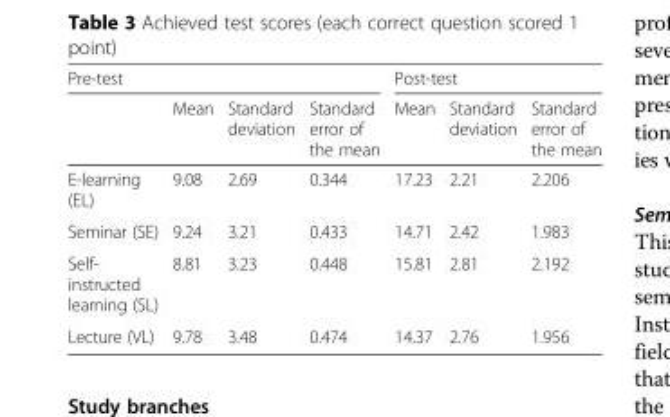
<table><thead><tr><td colspan="4">Pre-test</td><td colspan="3">Post-test</td></tr><tr><td></td><td>Mean</td><td>Standard deviation</td><td>Standard error of the mean</td><td>Mean</td><td>Standard deviation</td><td>Standard error of the mean</td></tr></thead><tbody><tr><td>E-learning (EL)</td><td>9.08</td><td>2.69</td><td>0.344</td><td>17.23</td><td>2.21</td><td>2.206</td></tr><tr><td>Seminar (SE)</td><td>9.24</td><td>3.21</td><td>0.433</td><td>14.71</td><td>2.42</td><td>1.983</td></tr><tr><td>Self- instructed learning (SL)</td><td>8.81</td><td>3.23</td><td>0.448</td><td>15.81</td><td>2.81</td><td>2.192</td></tr><tr><td>Lecture (VL)</td><td>9.78</td><td>3.48</td><td>0.474</td><td>14.37</td><td>2.76</td><td>1.956</td></tr></tbody></table>